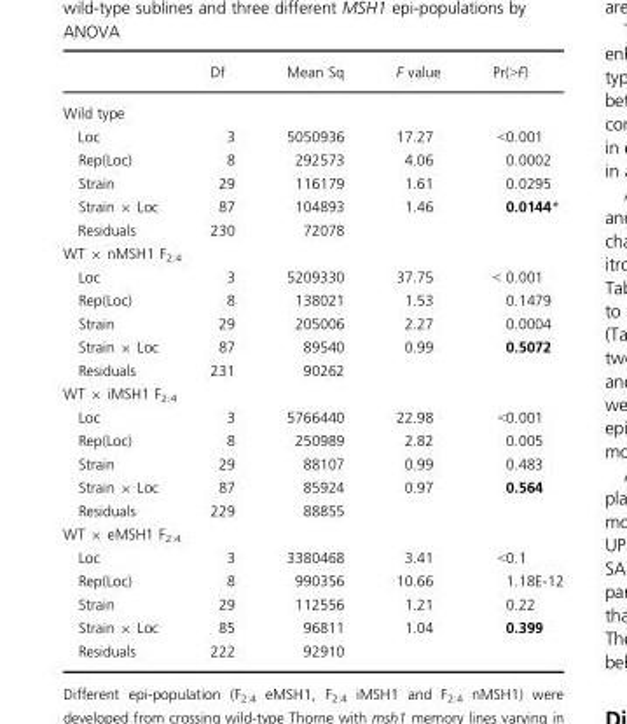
<table><thead><tr><td></td><td>Df</td><td>Mean Sq</td><td>F value</td><td>Pr(&gt;F)</td></tr></thead><tbody><tr><td colspan="5">Wild type</td></tr><tr><td>Loc</td><td>3</td><td>5050936</td><td>17.27</td><td>&lt;0.001</td></tr><tr><td>Rep(Loc)</td><td>8</td><td>292573</td><td>4.06</td><td>0.0002</td></tr><tr><td>Strain</td><td>29</td><td>116179</td><td>1.61</td><td>0.0295</td></tr><tr><td>Strain × Loc</td><td>87</td><td>104893</td><td>1.46</td><td>0.0144*</td></tr><tr><td>Residuals</td><td>230</td><td>72078</td><td></td><td></td></tr><tr><td colspan="5">WT × nMSH1 F<sub>2:4</sub></td></tr><tr><td>Loc</td><td>3</td><td>5209330</td><td>37.75</td><td>&lt; 0.001</td></tr><tr><td>Rep(Loc)</td><td>8</td><td>138021</td><td>1.53</td><td>0.1479</td></tr><tr><td>Strain</td><td>29</td><td>205006</td><td>2.27</td><td>0.0004</td></tr><tr><td>Strain × Loc</td><td>87</td><td>89540</td><td>0.99</td><td>0.5072</td></tr><tr><td>Residuals</td><td>231</td><td>90262</td><td></td><td></td></tr><tr><td colspan="5">WT × iMSH1 F<sub>2:4</sub></td></tr><tr><td>Loc</td><td>3</td><td>5766440</td><td>22.98</td><td>&lt;0.001</td></tr><tr><td>Rep(Loc)</td><td>8</td><td>250989</td><td>2.82</td><td>0.005</td></tr><tr><td>Strain</td><td>29</td><td>88107</td><td>0.99</td><td>0.483</td></tr><tr><td>Strain × Loc</td><td>87</td><td>85924</td><td>0.97</td><td>0.564</td></tr><tr><td>Residuals</td><td>229</td><td>88855</td><td></td><td></td></tr><tr><td colspan="5">WT × eMSH1 F<sub>2:4</sub></td></tr><tr><td>Loc</td><td>3</td><td>3380468</td><td>3.41</td><td>&lt;0.1</td></tr><tr><td>Rep(Loc)</td><td>8</td><td>990356</td><td>10.66</td><td>1.18E-12</td></tr><tr><td>Strain</td><td>29</td><td>112556</td><td>1.21</td><td>0.22</td></tr><tr><td>Strain × Loc</td><td>85</td><td>96811</td><td>1.04</td><td>0.399</td></tr><tr><td>Residuals</td><td>222</td><td>92910</td><td></td><td></td></tr></tbody></table>